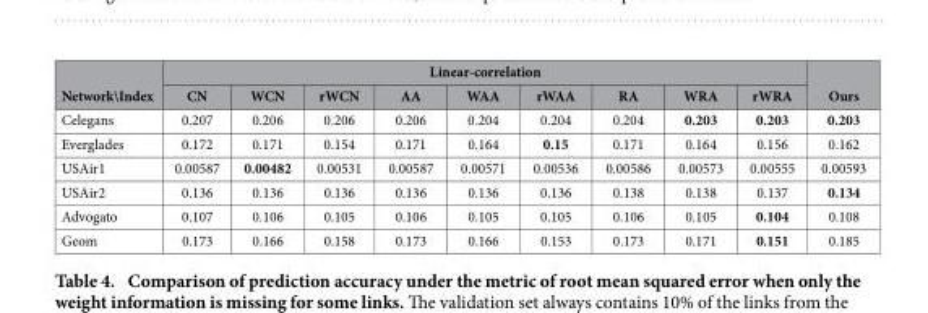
<table><thead><tr><td rowspan="2">Network\Index</td><td colspan="9">Linear-correlation</td><td rowspan="2">Ours</td></tr><tr><td>CN</td><td>WCN</td><td>rWCN</td><td>AA</td><td>WAA</td><td>rWAA</td><td>RA</td><td>WRA</td><td>rWRA</td></tr></thead><tbody><tr><td>Celegans</td><td>0.207</td><td>0.206</td><td>0.206</td><td>0.206</td><td>0.204</td><td>0.204</td><td>0.204</td><td>0.203</td><td>0.203</td><td>0.203</td></tr><tr><td>Everglades</td><td>0.172</td><td>0.171</td><td>0.154</td><td>0.171</td><td>0.164</td><td>0.15</td><td>0.171</td><td>0.164</td><td>0.156</td><td>0.162</td></tr><tr><td>USAir1</td><td>0.00587</td><td>0.00482</td><td>0.00531</td><td>0.00587</td><td>0.00571</td><td>0.00536</td><td>0.00586</td><td>0.00573</td><td>0.00555</td><td>0.00593</td></tr><tr><td>USAir2</td><td>0.136</td><td>0.136</td><td>0.136</td><td>0.136</td><td>0.136</td><td>0.136</td><td>0.138</td><td>0.138</td><td>0.137</td><td>0.134</td></tr><tr><td>Advogato</td><td>0.107</td><td>0.106</td><td>0.105</td><td>0.106</td><td>0.105</td><td>0.105</td><td>0.106</td><td>0.105</td><td>0.104</td><td>0.108</td></tr><tr><td>Geom</td><td>0.173</td><td>0.166</td><td>0.158</td><td>0.173</td><td>0.166</td><td>0.153</td><td>0.173</td><td>0.171</td><td>0.151</td><td>0.185</td></tr></tbody></table>